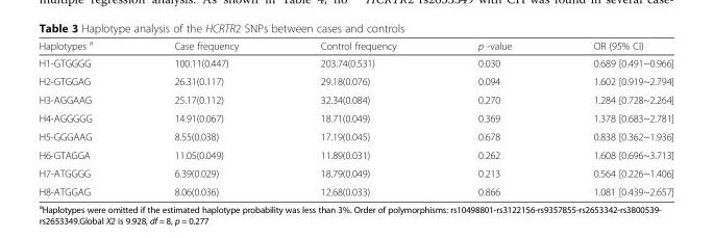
<table><thead><tr><td>Haplotypes <sup>a</sup></td><td>Case frequency</td><td>Control frequency</td><td>p -value</td><td>OR (95% CI)</td></tr></thead><tbody><tr><td>H1-GTGGGG</td><td>100.11(0.447)</td><td>203.74(0.531)</td><td>0.030</td><td>0.689 [0.491~0.966]</td></tr><tr><td>H2-GTGGAG</td><td>26.31(0.117)</td><td>29.18(0.076)</td><td>0.094</td><td>1.602 [0.919~2.794]</td></tr><tr><td>H3-AGGAAG</td><td>25.17(0.112)</td><td>32.34(0.084)</td><td>0.270</td><td>1.284 [0.728~2.264]</td></tr><tr><td>H4-AGGGGG</td><td>14.91(0.067)</td><td>18.71(0.049)</td><td>0.369</td><td>1.378 [0.683~2.781]</td></tr><tr><td>H5-GGGAAG</td><td>8.55(0.038)</td><td>17.19(0.045)</td><td>0.678</td><td>0.838 [0.362~1.936]</td></tr><tr><td>H6-GTAGGA</td><td>11.05(0.049)</td><td>11.89(0.031)</td><td>0.262</td><td>1.608 [0.696~3.713]</td></tr><tr><td>H7-ATGGGG</td><td>6.39(0.029)</td><td>18.79(0.049)</td><td>0.213</td><td>0.564 [0.226~1.406]</td></tr><tr><td>H8-ATGGAG</td><td>8.06(0.036)</td><td>12.68(0.033)</td><td>0.866</td><td>1.081 [0.439~2.657]</td></tr></tbody></table>